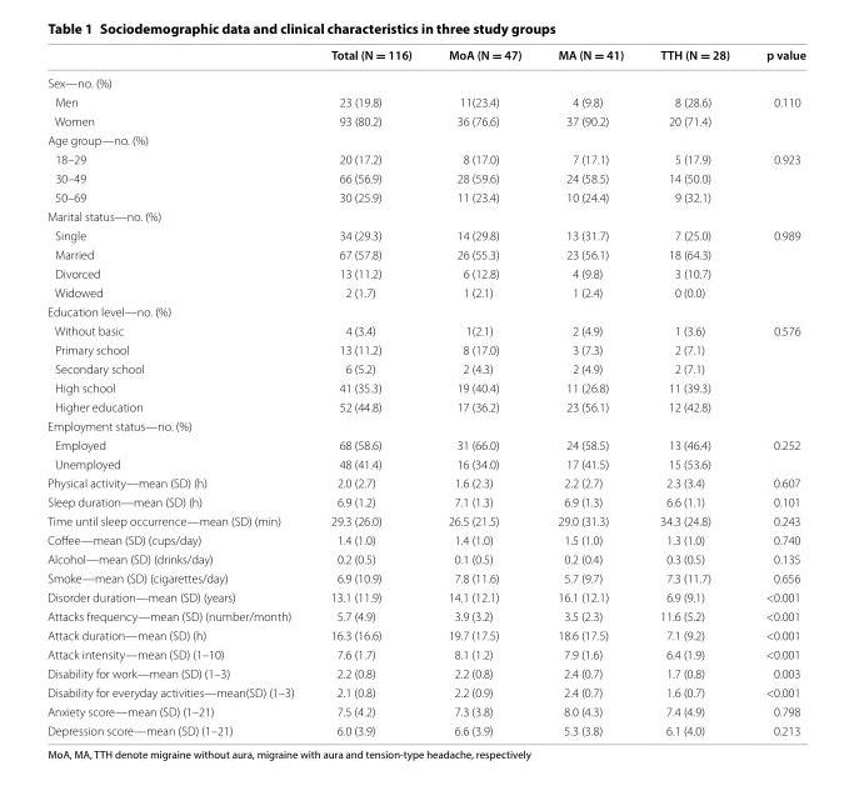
<table><thead><tr><td></td><td>Total (N = 116)</td><td>MoA (N = 47)</td><td>MA (N = 41)</td><td>TTH (N = 28)</td><td>p value</td></tr></thead><tbody><tr><td colspan="6">Sex—no. (%)</td></tr><tr><td>Men</td><td>23 (19.8)</td><td>11(23.4)</td><td>4 (9.8)</td><td>8 (28.6)</td><td rowspan="2">0.110</td></tr><tr><td>Women</td><td>93 (80.2)</td><td>36 (76.6)</td><td>37 (90.2)</td><td>20 (71.4)</td></tr><tr><td colspan="6">Age group—no. (%)</td></tr><tr><td>18–29</td><td>20 (17.2)</td><td>8 (17.0)</td><td>7 (17.1)</td><td>5 (17.9)</td><td rowspan="3">0.923</td></tr><tr><td>30–49</td><td>66 (56.9)</td><td>28 (59.6)</td><td>24 (58.5)</td><td>14 (50.0)</td></tr><tr><td>50–69</td><td>30 (25.9)</td><td>11 (23.4)</td><td>10 (24.4)</td><td>9 (32.1)</td></tr><tr><td colspan="6">Marital status—no. (%)</td></tr><tr><td>Single</td><td>34 (29.3)</td><td>14 (29.8)</td><td>13 (31.7)</td><td>7 (25.0)</td><td rowspan="4">0.989</td></tr><tr><td>Married</td><td>67 (57.8)</td><td>26 (55.3)</td><td>23 (56.1)</td><td>18 (64.3)</td></tr><tr><td>Divorced</td><td>13 (11.2)</td><td>6 (12.8)</td><td>4 (9.8)</td><td>3 (10.7)</td></tr><tr><td>Widowed</td><td>2 (1.7)</td><td>1 (2.1)</td><td>1 (2.4)</td><td>0 (0.0)</td></tr><tr><td colspan="6">Education level—no. (%)</td></tr><tr><td>Without basic</td><td>4 (3.4)</td><td>1(2.1)</td><td>2 (4.9)</td><td>1 (3.6)</td><td rowspan="5">0.576</td></tr><tr><td>Primary school</td><td>13 (11.2)</td><td>8 (17.0)</td><td>3 (7.3)</td><td>2 (7.1)</td></tr><tr><td>Secondary school</td><td>6 (5.2)</td><td>2 (4.3)</td><td>2 (4.9)</td><td>2 (7.1)</td></tr><tr><td>High school</td><td>41 (35.3)</td><td>19 (40.4)</td><td>11 (26.8)</td><td>11 (39.3)</td></tr><tr><td>Higher education</td><td>52 (44.8)</td><td>17 (36.2)</td><td>23 (56.1)</td><td>12 (42.8)</td></tr><tr><td colspan="6">Employment status—no. (%)</td></tr><tr><td>Employed</td><td>68 (58.6)</td><td>31 (66.0)</td><td>24 (58.5)</td><td>13 (46.4)</td><td rowspan="2">0.252</td></tr><tr><td>Unemployed</td><td>48 (41.4)</td><td>16 (34.0)</td><td>17 (41.5)</td><td>15 (53.6)</td></tr><tr><td>Physical activity—mean (SD) (h)</td><td>2.0 (2.7)</td><td>1.6 (2.3)</td><td>2.2 (2.7)</td><td>2.3 (3.4)</td><td>0.607</td></tr><tr><td>Sleep duration—mean (SD) (h)</td><td>6.9 (1.2)</td><td>7.1 (1.3)</td><td>6.9 (1.3)</td><td>6.6 (1.1)</td><td>0.101</td></tr><tr><td>Time until sleep occurrence—mean (SD) (min)</td><td>29.3 (26.0)</td><td>26.5 (21.5)</td><td>29.0 (31.3)</td><td>34.3 (24.8)</td><td>0.243</td></tr><tr><td>Coffee—mean (SD) (cups/day)</td><td>1.4 (1.0)</td><td>1.4 (1.0)</td><td>1.5 (1.0)</td><td>1.3 (1.0)</td><td>0.740</td></tr><tr><td>Alcohol—mean (SD) (drinks/day)</td><td>0.2 (0.5)</td><td>0.1 (0.5)</td><td>0.2 (0.4)</td><td>0.3 (0.5)</td><td>0.135</td></tr><tr><td>Smoke—mean (SD) (cigarettes/day)</td><td>6.9 (10.9)</td><td>7.8 (11.6)</td><td>5.7 (9.7)</td><td>7.3 (11.7)</td><td>0.656</td></tr><tr><td>Disorder duration—mean (SD) (years)</td><td>13.1 (11.9)</td><td>14.1 (12.1)</td><td>16.1 (12.1)</td><td>6.9 (9.1)</td><td>&lt;0.001</td></tr><tr><td>Attacks frequency—mean (SD) (number/month)</td><td>5.7 (4.9)</td><td>3.9 (3.2)</td><td>3.5 (2.3)</td><td>11.6 (5.2)</td><td>&lt;0.001</td></tr><tr><td>Attack duration—mean (SD) (h)</td><td>16.3 (16.6)</td><td>19.7 (17.5)</td><td>18.6 (17.5)</td><td>7.1 (9.2)</td><td>&lt;0.001</td></tr><tr><td>Attack intensity—mean (SD) (1–10)</td><td>7.6 (1.7)</td><td>8.1 (1.2)</td><td>7.9 (1.6)</td><td>6.4 (1.9)</td><td>&lt;0.001</td></tr><tr><td>Disability for work—mean (SD) (1–3)</td><td>2.2 (0.8)</td><td>2.2 (0.8)</td><td>2.4 (0.7)</td><td>1.7 (0.8)</td><td>0.003</td></tr><tr><td>Disability for everyday activities—mean(SD) (1–3)</td><td>2.1 (0.8)</td><td>2.2 (0.9)</td><td>2.4 (0.7)</td><td>1.6 (0.7)</td><td>&lt;0.001</td></tr><tr><td>Anxiety score—mean (SD) (1–21)</td><td>7.5 (4.2)</td><td>7.3 (3.8)</td><td>8.0 (4.3)</td><td>7.4 (4.9)</td><td>0.798</td></tr><tr><td>Depression score—mean (SD) (1–21)</td><td>6.0 (3.9)</td><td>6.6 (3.9)</td><td>5.3 (3.8)</td><td>6.1 (4.0)</td><td>0.213</td></tr></tbody></table>